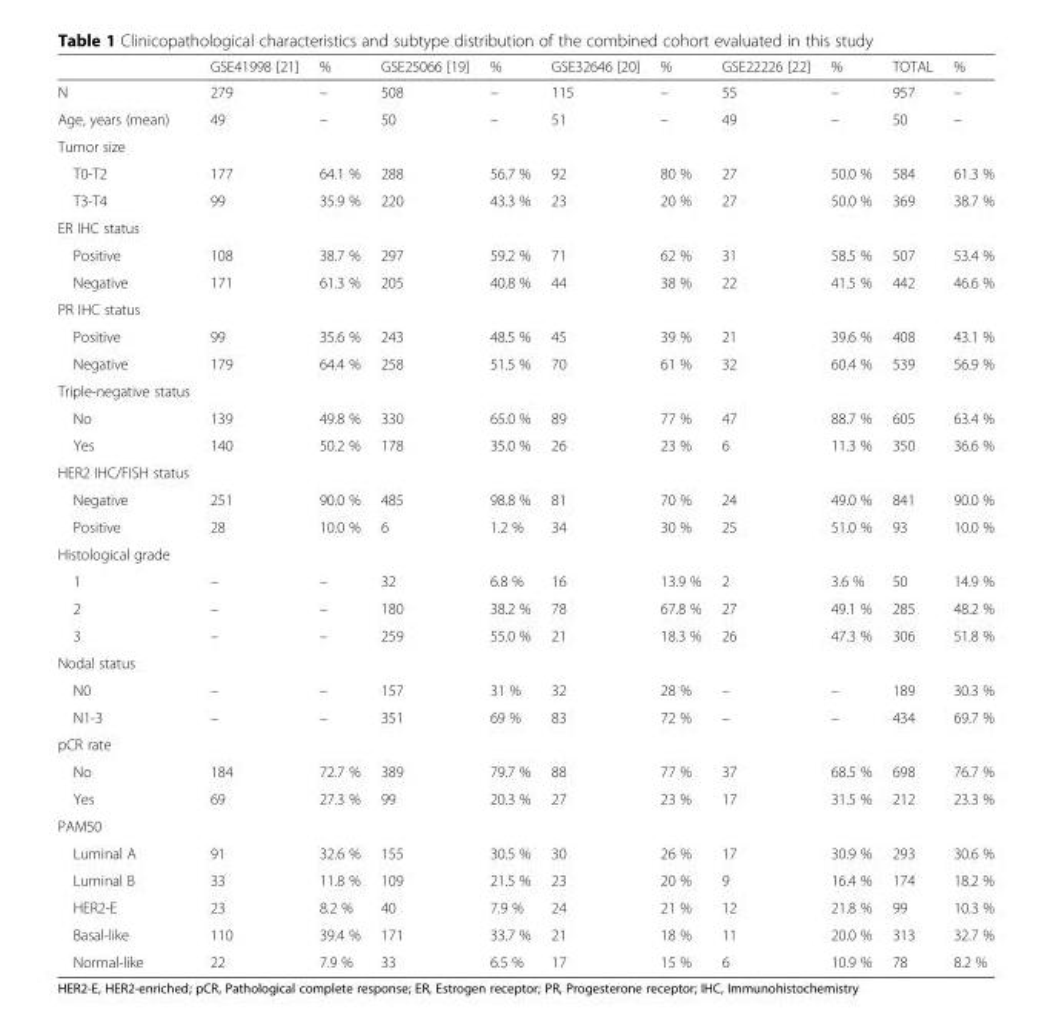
<table><thead><tr><td></td><td>GSE41998 [21]</td><td>%</td><td>GSE25066 [19]</td><td>%</td><td>GSE32646 [20]</td><td>%</td><td>GSE22226 [22]</td><td>%</td><td>TOTAL</td><td>%</td></tr></thead><tbody><tr><td>N</td><td>279</td><td>–</td><td>508</td><td>–</td><td>115</td><td>–</td><td>55</td><td>–</td><td>957</td><td>–</td></tr><tr><td>Age, years (mean)</td><td>49</td><td>–</td><td>50</td><td>–</td><td>51</td><td>–</td><td>49</td><td>–</td><td>50</td><td>–</td></tr><tr><td colspan="11">Tumor size</td></tr><tr><td>T0-T2</td><td>177</td><td>64.1 %</td><td>288</td><td>56.7 %</td><td>92</td><td>80 %</td><td>27</td><td>50.0 %</td><td>584</td><td>61.3 %</td></tr><tr><td>T3-T4</td><td>99</td><td>35.9 %</td><td>220</td><td>43.3 %</td><td>23</td><td>20 %</td><td>27</td><td>50.0 %</td><td>369</td><td>38.7 %</td></tr><tr><td colspan="11">ER IHC status</td></tr><tr><td>Positive</td><td>108</td><td>38.7 %</td><td>297</td><td>59.2 %</td><td>71</td><td>62 %</td><td>31</td><td>58.5 %</td><td>507</td><td>53.4 %</td></tr><tr><td>Negative</td><td>171</td><td>61.3 %</td><td>205</td><td>40.8 %</td><td>44</td><td>38 %</td><td>22</td><td>41.5 %</td><td>442</td><td>46.6 %</td></tr><tr><td colspan="11">PR IHC status</td></tr><tr><td>Positive</td><td>99</td><td>35.6 %</td><td>243</td><td>48.5 %</td><td>45</td><td>39 %</td><td>21</td><td>39.6 %</td><td>408</td><td>43.1 %</td></tr><tr><td>Negative</td><td>179</td><td>64.4 %</td><td>258</td><td>51.5 %</td><td>70</td><td>61 %</td><td>32</td><td>60.4 %</td><td>539</td><td>56.9 %</td></tr><tr><td colspan="11">Triple-negative status</td></tr><tr><td>No</td><td>139</td><td>49.8 %</td><td>330</td><td>65.0 %</td><td>89</td><td>77 %</td><td>47</td><td>88.7 %</td><td>605</td><td>63.4 %</td></tr><tr><td>Yes</td><td>140</td><td>50.2 %</td><td>178</td><td>35.0 %</td><td>26</td><td>23 %</td><td>6</td><td>11.3 %</td><td>350</td><td>36.6 %</td></tr><tr><td colspan="11">HER2 IHC/FISH status</td></tr><tr><td>Negative</td><td>251</td><td>90.0 %</td><td>485</td><td>98.8 %</td><td>81</td><td>70 %</td><td>24</td><td>49.0 %</td><td>841</td><td>90.0 %</td></tr><tr><td>Positive</td><td>28</td><td>10.0 %</td><td>6</td><td>1.2 %</td><td>34</td><td>30 %</td><td>25</td><td>51.0 %</td><td>93</td><td>10.0 %</td></tr><tr><td colspan="11">Histological grade</td></tr><tr><td>1</td><td>–</td><td>–</td><td>32</td><td>6.8 %</td><td>16</td><td>13.9 %</td><td>2</td><td>3.6 %</td><td>50</td><td>14.9 %</td></tr><tr><td>2</td><td>–</td><td>–</td><td>180</td><td>38.2 %</td><td>78</td><td>67.8 %</td><td>27</td><td>49.1 %</td><td>285</td><td>48.2 %</td></tr><tr><td>3</td><td>–</td><td>–</td><td>259</td><td>55.0 %</td><td>21</td><td>18.3 %</td><td>26</td><td>47.3 %</td><td>306</td><td>51.8 %</td></tr><tr><td colspan="11">Nodal status</td></tr><tr><td>N0</td><td>–</td><td>–</td><td>157</td><td>31 %</td><td>32</td><td>28 %</td><td>–</td><td>–</td><td>189</td><td>30.3 %</td></tr><tr><td>N1-3</td><td>–</td><td>–</td><td>351</td><td>69 %</td><td>83</td><td>72 %</td><td>–</td><td>–</td><td>434</td><td>69.7 %</td></tr><tr><td colspan="11">pCR rate</td></tr><tr><td>No</td><td>184</td><td>72.7 %</td><td>389</td><td>79.7 %</td><td>88</td><td>77 %</td><td>37</td><td>68.5 %</td><td>698</td><td>76.7 %</td></tr><tr><td>Yes</td><td>69</td><td>27.3 %</td><td>99</td><td>20.3 %</td><td>27</td><td>23 %</td><td>17</td><td>31.5 %</td><td>212</td><td>23.3 %</td></tr><tr><td colspan="11">PAM50</td></tr><tr><td>Luminal A</td><td>91</td><td>32.6 %</td><td>155</td><td>30.5 %</td><td>30</td><td>26 %</td><td>17</td><td>30.9 %</td><td>293</td><td>30.6 %</td></tr><tr><td>Luminal B</td><td>33</td><td>11.8 %</td><td>109</td><td>21.5 %</td><td>23</td><td>20 %</td><td>9</td><td>16.4 %</td><td>174</td><td>18.2 %</td></tr><tr><td>HER2-E</td><td>23</td><td>8.2 %</td><td>40</td><td>7.9 %</td><td>24</td><td>21 %</td><td>12</td><td>21.8 %</td><td>99</td><td>10.3 %</td></tr><tr><td>Basal-like</td><td>110</td><td>39.4 %</td><td>171</td><td>33.7 %</td><td>21</td><td>18 %</td><td>11</td><td>20.0 %</td><td>313</td><td>32.7 %</td></tr><tr><td>Normal-like</td><td>22</td><td>7.9 %</td><td>33</td><td>6.5 %</td><td>17</td><td>15 %</td><td>6</td><td>10.9 %</td><td>78</td><td>8.2 %</td></tr></tbody></table>